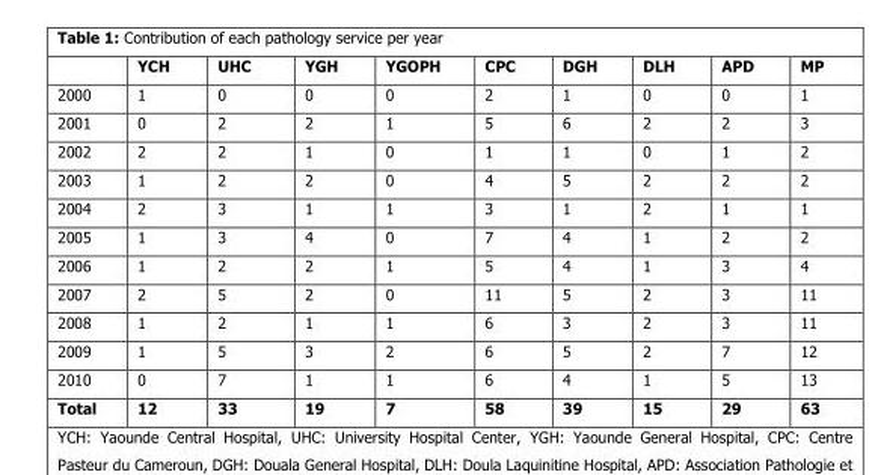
<table><thead><tr><td></td><td>YCH</td><td>UHC</td><td>YGH</td><td>YGOPH</td><td>CPC</td><td>DGH</td><td>DLH</td><td>APD</td><td>MP</td></tr></thead><tbody><tr><td>2000</td><td>1</td><td>0</td><td>0</td><td>0</td><td>2</td><td>1</td><td>0</td><td>0</td><td>1</td></tr><tr><td>2001</td><td>0</td><td>2</td><td>2</td><td>1</td><td>5</td><td>6</td><td>2</td><td>2</td><td>3</td></tr><tr><td>2002</td><td>2</td><td>2</td><td>1</td><td>0</td><td>1</td><td>1</td><td>0</td><td>1</td><td>2</td></tr><tr><td>2003</td><td>1</td><td>2</td><td>2</td><td>0</td><td>4</td><td>5</td><td>2</td><td>2</td><td>2</td></tr><tr><td>2004</td><td>2</td><td>3</td><td>1</td><td>1</td><td>3</td><td>1</td><td>2</td><td>1</td><td>1</td></tr><tr><td>2005</td><td>1</td><td>3</td><td>4</td><td>0</td><td>7</td><td>4</td><td>1</td><td>2</td><td>2</td></tr><tr><td>2006</td><td>1</td><td>2</td><td>2</td><td>1</td><td>5</td><td>4</td><td>1</td><td>3</td><td>4</td></tr><tr><td>2007</td><td>2</td><td>5</td><td>2</td><td>0</td><td>11</td><td>5</td><td>2</td><td>3</td><td>11</td></tr><tr><td>2008</td><td>1</td><td>2</td><td>1</td><td>1</td><td>6</td><td>3</td><td>2</td><td>3</td><td>11</td></tr><tr><td>2009</td><td>1</td><td>5</td><td>3</td><td>2</td><td>6</td><td>5</td><td>2</td><td>7</td><td>12</td></tr><tr><td>2010</td><td>0</td><td>7</td><td>1</td><td>1</td><td>6</td><td>4</td><td>1</td><td>5</td><td>13</td></tr><tr><td>Total</td><td>12</td><td>33</td><td>19</td><td>7</td><td>58</td><td>39</td><td>15</td><td>29</td><td>63</td></tr></tbody></table>